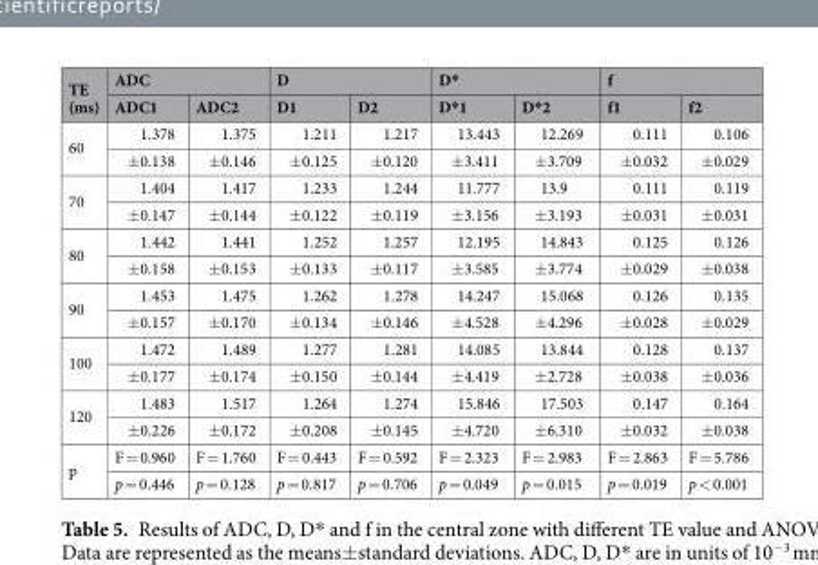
<table><thead><tr><td rowspan="2">TE (ms)</td><td colspan="2">ADC</td><td colspan="2">D</td><td colspan="2">D*</td><td colspan="2">f</td></tr><tr><td>ADC1</td><td>ADC2</td><td>D1</td><td>D2</td><td>D*1</td><td>D*2</td><td>f1</td><td>f2</td></tr></thead><tbody><tr><td rowspan="2">60</td><td>1.378</td><td>1.375</td><td>1.211</td><td>1.217</td><td>13.443</td><td>12.269</td><td>0.111</td><td>0.106</td></tr><tr><td>±0.138</td><td>±0.146</td><td>±0.125</td><td>±0.120</td><td>±3.411</td><td>±3.709</td><td>±0.032</td><td>±0.029</td></tr><tr><td rowspan="2">70</td><td>1.404</td><td>1.417</td><td>1.233</td><td>1.244</td><td>11.777</td><td>13.9</td><td>0.111</td><td>0.119</td></tr><tr><td>±0.147</td><td>±0.144</td><td>±0.122</td><td>±0.119</td><td>±3.156</td><td>±3.193</td><td>±0.031</td><td>±0.031</td></tr><tr><td rowspan="2">80</td><td>1.442</td><td>1.441</td><td>1.252</td><td>1.257</td><td>12.195</td><td>14.843</td><td>0.125</td><td>0.126</td></tr><tr><td>±0.158</td><td>±0.153</td><td>±0.133</td><td>±0.117</td><td>±3.585</td><td>±3.774</td><td>±0.029</td><td>±0.038</td></tr><tr><td rowspan="2">90</td><td>1.453</td><td>1.475</td><td>1.262</td><td>1.278</td><td>14.247</td><td>15.068</td><td>0.126</td><td>0.135</td></tr><tr><td>±0.157</td><td>±0.170</td><td>±0.134</td><td>±0.146</td><td>±4.528</td><td>±4.296</td><td>±0.028</td><td>±0.029</td></tr><tr><td rowspan="2">100</td><td>1.472</td><td>1.489</td><td>1.277</td><td>1.281</td><td>14.085</td><td>13.844</td><td>0.128</td><td>0.137</td></tr><tr><td>±0.177</td><td>±0.174</td><td>±0.150</td><td>±0.144</td><td>±4.419</td><td>±2.728</td><td>±0.038</td><td>±0.036</td></tr><tr><td rowspan="2">120</td><td>1.483</td><td>1.517</td><td>1.264</td><td>1.274</td><td>15.846</td><td>17.503</td><td>0.147</td><td>0.164</td></tr><tr><td>±0.226</td><td>±0.172</td><td>±0.208</td><td>±0.145</td><td>±4.720</td><td>±6.310</td><td>±0.032</td><td>±0.038</td></tr><tr><td rowspan="2">p</td><td>F = 0.960</td><td>F = 1.760</td><td>F = 0.443</td><td>F = 0.592</td><td>F = 2.323</td><td>F = 2.983</td><td>F = 2.863</td><td>F = 5.786</td></tr><tr><td>p = 0.446</td><td>p = 0.128</td><td>p = 0.817</td><td>p = 0.706</td><td>p = 0.049</td><td>p = 0.015</td><td>p = 0.019</td><td>p &lt; 0.001</td></tr></tbody></table>